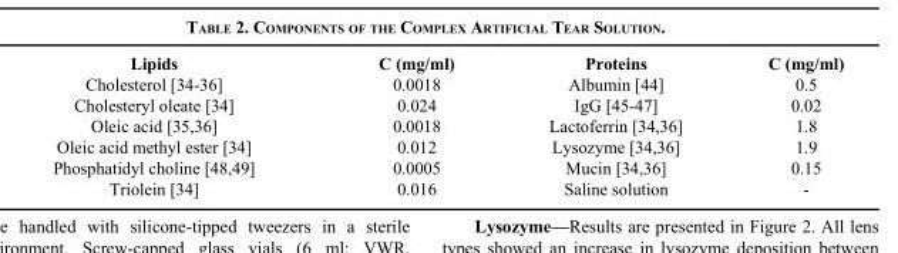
<table><thead><tr><td>Lipids</td><td>C (mg/ml)</td><td>Proteins</td><td>C (mg/ml)</td></tr></thead><tbody><tr><td>Cholesterol [34-36]</td><td>0.0018</td><td>Albumin [44]</td><td>0.5</td></tr><tr><td>Cholesteryl oleate [34]</td><td>0.024</td><td>IgG [45-47]</td><td>0.02</td></tr><tr><td>Oleic acid [35,36]</td><td>0.0018</td><td>Lactoferrin [34,36]</td><td>1.8</td></tr><tr><td>Oleic acid methyl ester [34]</td><td>0.012</td><td>Lysozyme [34,36]</td><td>1.9</td></tr><tr><td>Phosphatidyl choline [48,49]</td><td>0.0005</td><td>Mucin [34,36]</td><td>0.15</td></tr><tr><td>Triolein [34]</td><td>0.016</td><td>Saline solution</td><td>-</td></tr></tbody></table>